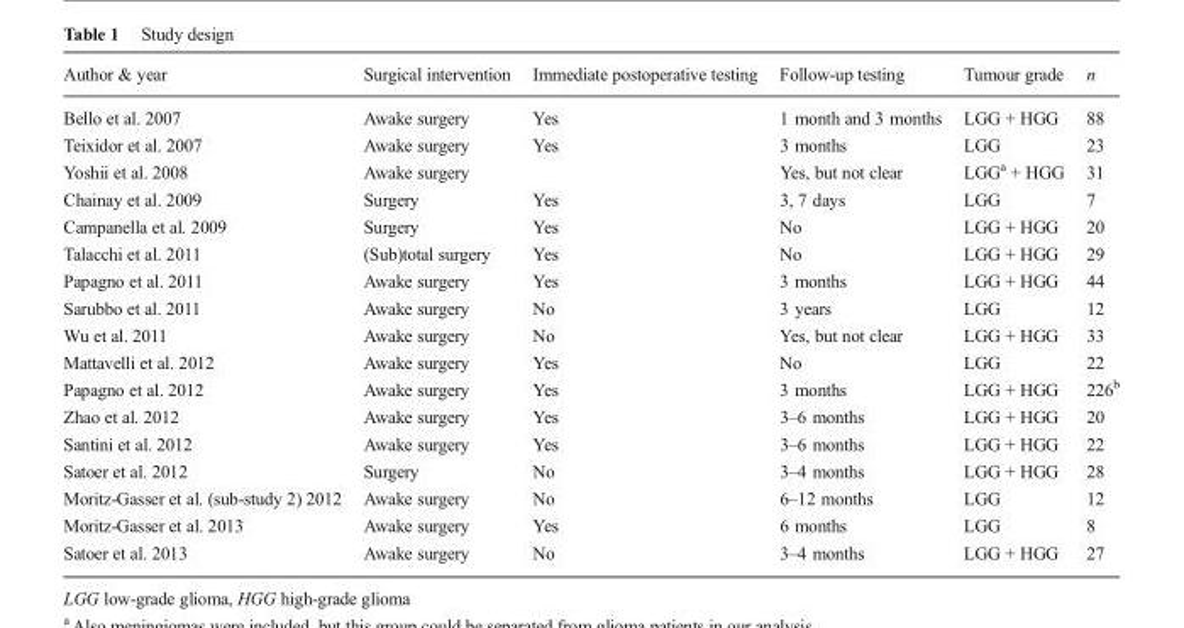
<table><thead><tr><td>Author &amp; year</td><td>Surgical intervention</td><td>Immediate postoperative testing</td><td>Follow-up testing</td><td>Tumour grade</td><td>n</td></tr></thead><tbody><tr><td>Bello et al. 2007</td><td>Awake surgery</td><td>Yes</td><td>1 month and 3 months</td><td>LGG + HGG</td><td>88</td></tr><tr><td>Teixidor et al. 2007</td><td>Awake surgery</td><td rowspan="2">Yes</td><td>3 months</td><td>LGG</td><td>23</td></tr><tr><td>Yoshii et al. 2008</td><td>Awake surgery</td><td>Yes, but not clear</td><td>LGG<sup>a</sup> + HGG</td><td>31</td></tr><tr><td>Chainay et al. 2009</td><td>Surgery</td><td>Yes</td><td>3, 7 days</td><td>LGG</td><td>7</td></tr><tr><td>Campanella et al. 2009</td><td>Surgery</td><td>Yes</td><td>No</td><td>LGG + HGG</td><td>20</td></tr><tr><td>Talacchi et al. 2011</td><td>(Sub)total surgery</td><td>Yes</td><td>No</td><td>LGG + HGG</td><td>29</td></tr><tr><td>Papagno et al. 2011</td><td>Awake surgery</td><td>Yes</td><td>3 months</td><td>LGG + HGG</td><td>44</td></tr><tr><td>Sarubbo et al. 2011</td><td>Awake surgery</td><td>No</td><td>3 years</td><td>LGG</td><td>12</td></tr><tr><td>Wu et al. 2011</td><td>Awake surgery</td><td>No</td><td>Yes, but not clear</td><td>LGG + HGG</td><td>33</td></tr><tr><td>Mattavelli et al. 2012</td><td>Awake surgery</td><td>Yes</td><td>No</td><td>LGG</td><td>22</td></tr><tr><td>Papagno et al. 2012</td><td>Awake surgery</td><td>Yes</td><td>3 months</td><td>LGG + HGG</td><td>226<sup>b</sup></td></tr><tr><td>Zhao et al. 2012</td><td>Awake surgery</td><td>Yes</td><td>3–6 months</td><td>LGG + HGG</td><td>20</td></tr><tr><td>Santini et al. 2012</td><td>Awake surgery</td><td>Yes</td><td>3–6 months</td><td>LGG + HGG</td><td>22</td></tr><tr><td>Satoer et al. 2012</td><td>Surgery</td><td>No</td><td>3–4 months</td><td>LGG + HGG</td><td>28</td></tr><tr><td>Moritz-Gasser et al. (sub-study 2) 2012</td><td>Awake surgery</td><td>No</td><td>6–12 months</td><td>LGG</td><td>12</td></tr><tr><td>Moritz-Gasser et al. 2013</td><td>Awake surgery</td><td>Yes</td><td>6 months</td><td>LGG</td><td>8</td></tr><tr><td>Satoer et al. 2013</td><td>Awake surgery</td><td>No</td><td>3–4 months</td><td>LGG + HGG</td><td>27</td></tr></tbody></table>